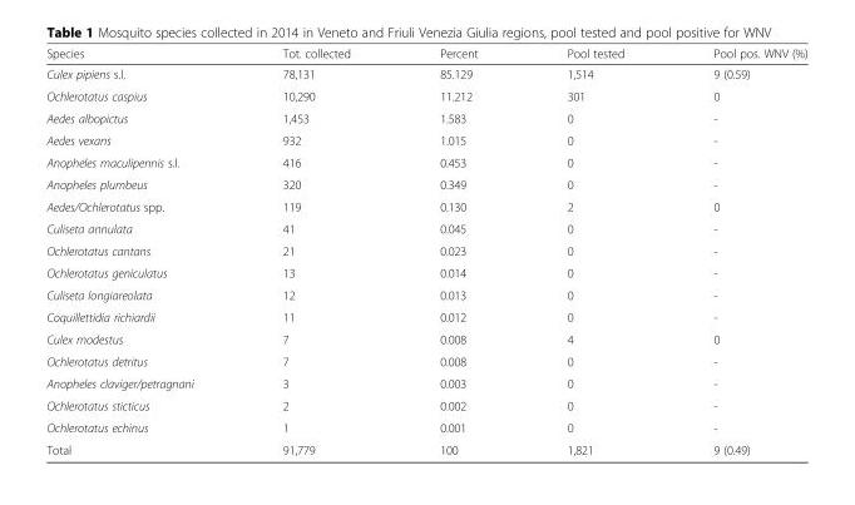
<table><thead><tr><td>Species</td><td>Tot. collected</td><td>Percent</td><td>Pool tested</td><td>Pool pos. WNV (%)</td></tr></thead><tbody><tr><td>Culex pipiens s.l.</td><td>78,131</td><td>85.129</td><td>1,514</td><td>9 (0.59)</td></tr><tr><td>Ochlerotatus caspius</td><td>10,290</td><td>11.212</td><td>301</td><td>0</td></tr><tr><td>Aedes albopictus</td><td>1,453</td><td>1.583</td><td>0</td><td>-</td></tr><tr><td>Aedes vexans</td><td>932</td><td>1.015</td><td>0</td><td>-</td></tr><tr><td>Anopheles maculipennis s.l.</td><td>416</td><td>0.453</td><td>0</td><td>-</td></tr><tr><td>Anopheles plumbeus</td><td>320</td><td>0.349</td><td>0</td><td>-</td></tr><tr><td>Aedes/Ochlerotatus spp.</td><td>119</td><td>0.130</td><td>2</td><td>0</td></tr><tr><td>Culiseta annulata</td><td>41</td><td>0.045</td><td>0</td><td>-</td></tr><tr><td>Ochlerotatus cantans</td><td>21</td><td>0.023</td><td>0</td><td>-</td></tr><tr><td>Ochlerotatus geniculatus</td><td>13</td><td>0.014</td><td>0</td><td>-</td></tr><tr><td>Culiseta longiareolata</td><td>12</td><td>0.013</td><td>0</td><td>-</td></tr><tr><td>Coquillettidia richiardii</td><td>11</td><td>0.012</td><td>0</td><td>-</td></tr><tr><td>Culex modestus</td><td>7</td><td>0.008</td><td>4</td><td>0</td></tr><tr><td>Ochlerotatus detritus</td><td>7</td><td>0.008</td><td>0</td><td>-</td></tr><tr><td>Anopheles claviger/petragnani</td><td>3</td><td>0.003</td><td>0</td><td>-</td></tr><tr><td>Ochlerotatus sticticus</td><td>2</td><td>0.002</td><td>0</td><td>-</td></tr><tr><td>Ochlerotatus echinus</td><td>1</td><td>0.001</td><td>0</td><td>-</td></tr><tr><td>Total</td><td>91,779</td><td>100</td><td>1,821</td><td>9 (0.49)</td></tr></tbody></table>